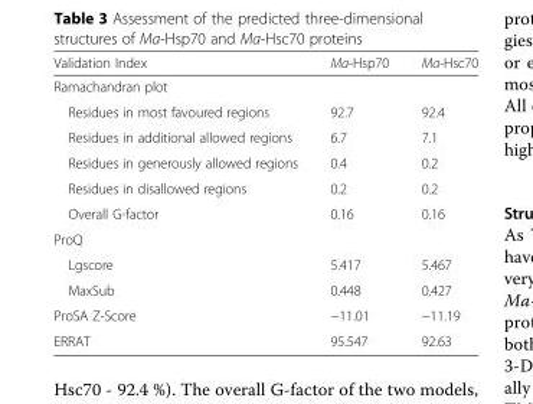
<table><thead><tr><td>Validation Index</td><td>Ma-Hsp70</td><td>Ma-Hsc70</td></tr></thead><tbody><tr><td colspan="3">Ramachandran plot</td></tr><tr><td>Residues in most favoured regions</td><td>92.7</td><td>92.4</td></tr><tr><td>Residues in additional allowed regions</td><td>6.7</td><td>7.1</td></tr><tr><td>Residues in generously allowed regions</td><td>0.4</td><td>0.2</td></tr><tr><td>Residues in disallowed regions</td><td>0.2</td><td>0.2</td></tr><tr><td>Overall G-factor</td><td>0.16</td><td>0.16</td></tr><tr><td colspan="3">ProQ</td></tr><tr><td>Lgscore</td><td>5.417</td><td>5.467</td></tr><tr><td>MaxSub</td><td>0.448</td><td>0.427</td></tr><tr><td>ProSA Z-Score</td><td>−11.01</td><td>−11.19</td></tr><tr><td>ERRAT</td><td>95.547</td><td>92.63</td></tr></tbody></table>